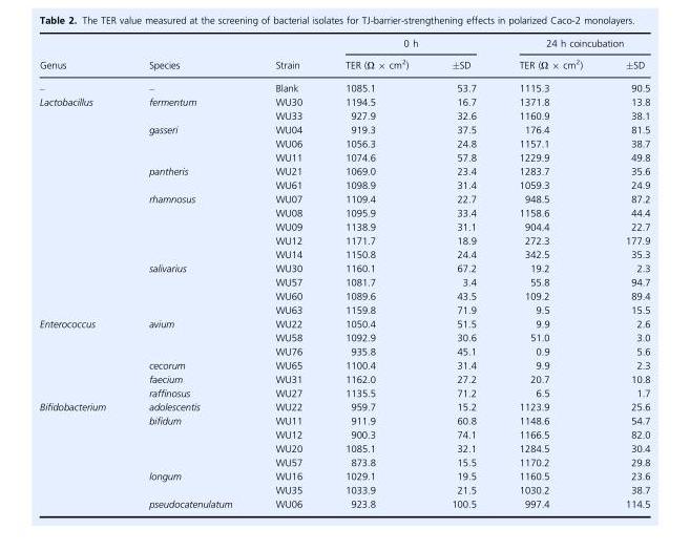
<table><thead><tr><td rowspan="2">Genus</td><td rowspan="2">Species</td><td rowspan="2">Strain</td><td colspan="2">0 h</td><td colspan="2">24 h coincubation</td></tr><tr><td>TER (Ω × cm<sup>2</sup>)</td><td>±SD</td><td>TER (Ω × cm<sup>2</sup>)</td><td>±SD</td></tr></thead><tbody><tr><td>–</td><td>–</td><td>Blank</td><td>1085.1</td><td>53.7</td><td>1115.3</td><td>90.5</td></tr><tr><td rowspan="16">Lactobacillus</td><td rowspan="2">fermentum</td><td>WU30</td><td>1194.5</td><td>16.7</td><td>1371.8</td><td>13.8</td></tr><tr><td>WU33</td><td>927.9</td><td>32.6</td><td>1160.9</td><td>38.1</td></tr><tr><td rowspan="3">gasseri</td><td>WU04</td><td>919.3</td><td>37.5</td><td>176.4</td><td>81.5</td></tr><tr><td>WU06</td><td>1056.3</td><td>24.8</td><td>1157.1</td><td>38.7</td></tr><tr><td>WU11</td><td>1074.6</td><td>57.8</td><td>1229.9</td><td>49.8</td></tr><tr><td rowspan="2">pantheris</td><td>WU21</td><td>1069.0</td><td>23.4</td><td>1283.7</td><td>35.6</td></tr><tr><td>WU61</td><td>1098.9</td><td>31.4</td><td>1059.3</td><td>24.9</td></tr><tr><td rowspan="5">rhamnosus</td><td>WU07</td><td>1109.4</td><td>22.7</td><td>948.5</td><td>87.2</td></tr><tr><td>WU08</td><td>1095.9</td><td>33.4</td><td>1158.6</td><td>44.4</td></tr><tr><td>WU09</td><td>1138.9</td><td>31.1</td><td>904.4</td><td>22.7</td></tr><tr><td>WU12</td><td>1171.7</td><td>18.9</td><td>272.3</td><td>177.9</td></tr><tr><td>WU14</td><td>1150.8</td><td>24.4</td><td>342.5</td><td>35.3</td></tr><tr><td rowspan="4">salivarius</td><td>WU30</td><td>1160.1</td><td>67.2</td><td>19.2</td><td>2.3</td></tr><tr><td>WU57</td><td>1081.7</td><td>3.4</td><td>55.8</td><td>94.7</td></tr><tr><td>WU60</td><td>1089.6</td><td>43.5</td><td>109.2</td><td>89.4</td></tr><tr><td>WU63</td><td>1159.8</td><td>71.9</td><td>9.5</td><td>15.5</td></tr><tr><td rowspan="6">Enterococcus</td><td rowspan="3">avium</td><td>WU22</td><td>1050.4</td><td>51.5</td><td>9.9</td><td>2.6</td></tr><tr><td>WU58</td><td>1092.9</td><td>30.6</td><td>51.0</td><td>3.0</td></tr><tr><td>WU76</td><td>935.8</td><td>45.1</td><td>0.9</td><td>5.6</td></tr><tr><td>cecorum</td><td>WU65</td><td>1100.4</td><td>31.4</td><td>9.9</td><td>2.3</td></tr><tr><td>faecium</td><td>WU31</td><td>1162.0</td><td>27.2</td><td>20.7</td><td>10.8</td></tr><tr><td>raffinosus</td><td>WU27</td><td>1135.5</td><td>71.2</td><td>6.5</td><td>1.7</td></tr><tr><td rowspan="8">Bifidobacterium</td><td>adolescentis</td><td>WU22</td><td>959.7</td><td>15.2</td><td>1123.9</td><td>25.6</td></tr><tr><td rowspan="4">bifidum</td><td>WU11</td><td>911.9</td><td>60.8</td><td>1148.6</td><td>54.7</td></tr><tr><td>WU12</td><td>900.3</td><td>74.1</td><td>1166.5</td><td>82.0</td></tr><tr><td>WU20</td><td>1085.1</td><td>32.1</td><td>1284.5</td><td>30.4</td></tr><tr><td>WU57</td><td>873.8</td><td>15.5</td><td>1170.2</td><td>29.8</td></tr><tr><td rowspan="2">longum</td><td>WU16</td><td>1029.1</td><td>19.5</td><td>1160.5</td><td>23.6</td></tr><tr><td>WU35</td><td>1033.9</td><td>21.5</td><td>1030.2</td><td>38.7</td></tr><tr><td>pseudocatenulatum</td><td>WU06</td><td>923.8</td><td>100.5</td><td>997.4</td><td>114.5</td></tr></tbody></table>